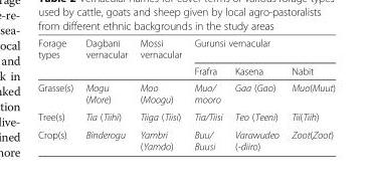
<table><thead><tr><td rowspan="2">Forage types</td><td rowspan="2">Dagbani vernacular</td><td rowspan="2">Mossi vernacular</td><td colspan="3">Gurunsi vernacular</td></tr><tr><td>Frafra</td><td>Kasena</td><td>Nabit</td></tr></thead><tbody><tr><td>Grasse(s)</td><td>Mogu (More)</td><td>Moo (Moogu)</td><td>Muo/ mooro</td><td>Gaa (Gao)</td><td>Muo(Muut)</td></tr><tr><td>Tree(s)</td><td>Tia (Tiihi)</td><td>Tiiga (Tiisi)</td><td>Tia/Tiisi</td><td>Teo (Teeni)</td><td>Tii(Tiih)</td></tr><tr><td>Crop(s)</td><td>Binderogu</td><td>Yambri (Yamdo)</td><td>Buu/ Buusi</td><td>Varawudeo (-diiro)</td><td>Zoot(Zoot)</td></tr></tbody></table>